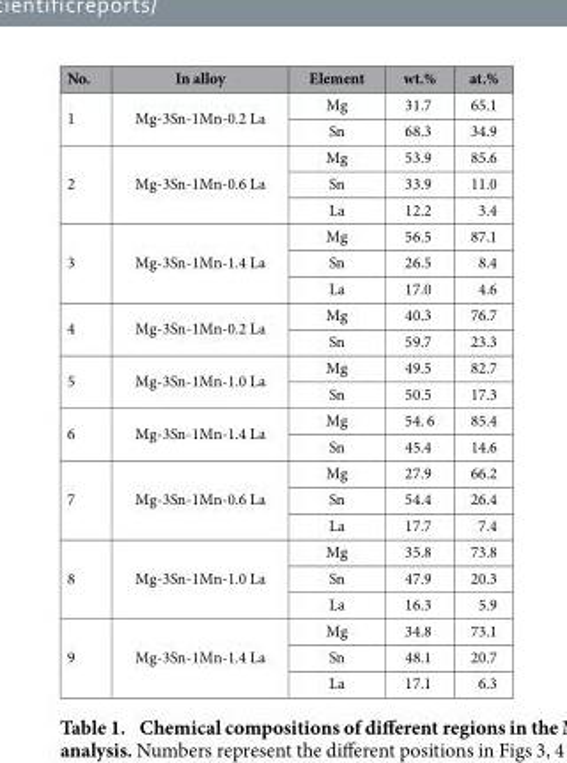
<table><thead><tr><td>No.</td><td>In alloy</td><td>Element</td><td>wt.%</td><td>at.%</td></tr></thead><tbody><tr><td rowspan="2">1</td><td rowspan="2">Mg-3Sn-1Mn-0.2 La</td><td>Mg</td><td>31.7</td><td>65.1</td></tr><tr><td>Sn</td><td>68.3</td><td>34.9</td></tr><tr><td rowspan="3">2</td><td rowspan="3">Mg-3Sn-1Mn-0.6 La</td><td>Mg</td><td>53.9</td><td>85.6</td></tr><tr><td>Sn</td><td>33.9</td><td>11.0</td></tr><tr><td>La</td><td>12.2</td><td>3.4</td></tr><tr><td rowspan="3">3</td><td rowspan="3">Mg-3Sn-1Mn-1.4 La</td><td>Mg</td><td>56.5</td><td>87.1</td></tr><tr><td>Sn</td><td>26.5</td><td>8.4</td></tr><tr><td>La</td><td>17.0</td><td>4.6</td></tr><tr><td rowspan="2">4</td><td rowspan="2">Mg-3Sn-1Mn-0.2 La</td><td>Mg</td><td>40.3</td><td>76.7</td></tr><tr><td>Sn</td><td>59.7</td><td>23.3</td></tr><tr><td rowspan="2">5</td><td rowspan="2">Mg-3Sn-1Mn-1.0 La</td><td>Mg</td><td>49.5</td><td>82.7</td></tr><tr><td>Sn</td><td>50.5</td><td>17.3</td></tr><tr><td rowspan="2">6</td><td rowspan="2">Mg-3Sn-1Mn-1.4 La</td><td>Mg</td><td>54. 6</td><td>85.4</td></tr><tr><td>Sn</td><td>45.4</td><td>14.6</td></tr><tr><td rowspan="3">7</td><td rowspan="3">Mg-3Sn-1Mn-0.6 La</td><td>Mg</td><td>27.9</td><td>66.2</td></tr><tr><td>Sn</td><td>54.4</td><td>26.4</td></tr><tr><td>La</td><td>17.7</td><td>7.4</td></tr><tr><td rowspan="3">8</td><td rowspan="3">Mg-3Sn-1Mn-1.0 La</td><td>Mg</td><td>35.8</td><td>73.8</td></tr><tr><td>Sn</td><td>47.9</td><td>20.3</td></tr><tr><td>La</td><td>16.3</td><td>5.9</td></tr><tr><td rowspan="3">9</td><td rowspan="3">Mg-3Sn-1Mn-1.4 La</td><td>Mg</td><td>34.8</td><td>73.1</td></tr><tr><td>Sn</td><td>48.1</td><td>20.7</td></tr><tr><td>La</td><td>17.1</td><td>6.3</td></tr></tbody></table>